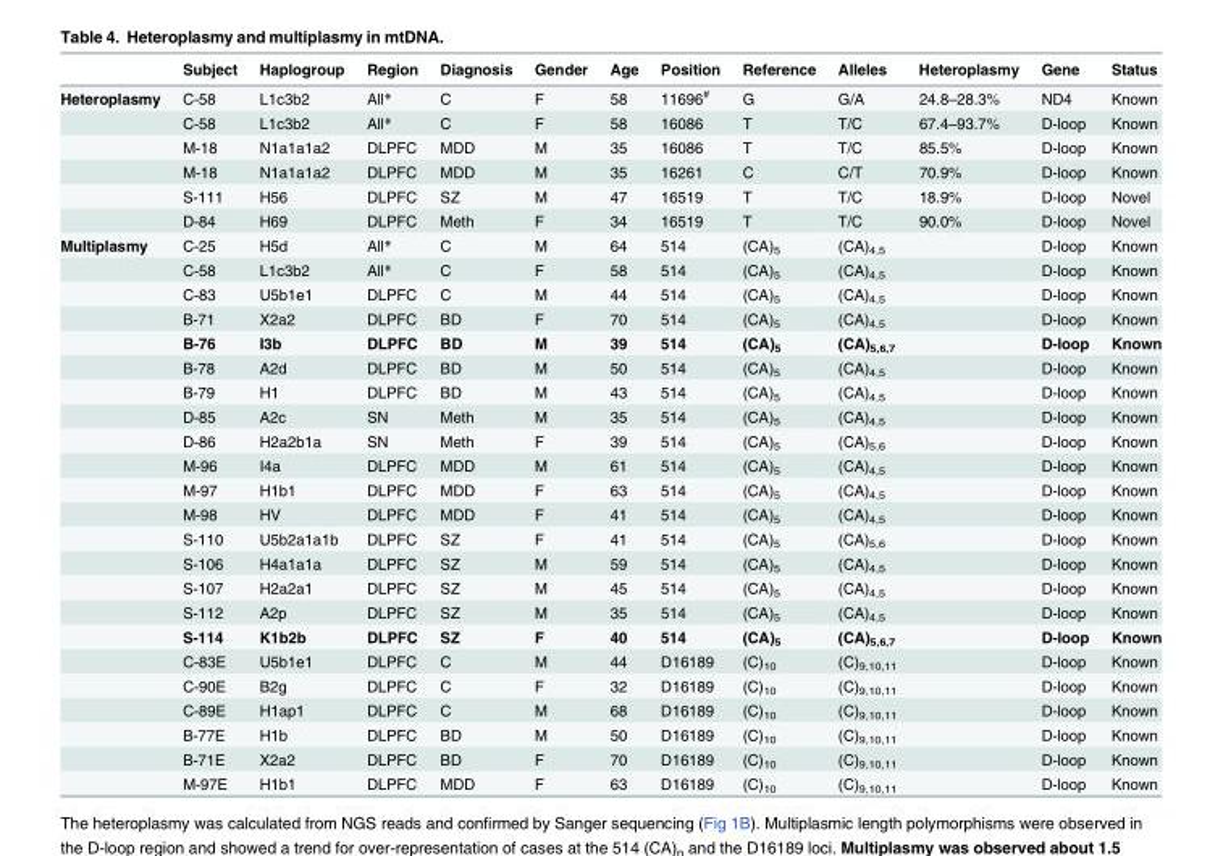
<table><thead><tr><td></td><td>Subject</td><td>Haplogroup</td><td>Region</td><td>Diagnosis</td><td>Gender</td><td>Age</td><td>Position</td><td>Reference</td><td>Alleles</td><td>Heteroplasmy</td><td>Gene</td><td>Status</td></tr></thead><tbody><tr><td rowspan="6">Heteroplasmy</td><td>C-58</td><td>L1c3b2</td><td>All*</td><td>C</td><td>F</td><td>58</td><td>11696<sup>#</sup></td><td>G</td><td>G/A</td><td>24.8–28.3%</td><td>ND4</td><td>Known</td></tr><tr><td>C-58</td><td>L1c3b2</td><td>All*</td><td>C</td><td>F</td><td>58</td><td>16086</td><td>T</td><td>T/C</td><td>67.4–93.7%</td><td>D-loop</td><td>Known</td></tr><tr><td>M-18</td><td>N1a1a1a2</td><td>DLPFC</td><td>MDD</td><td>M</td><td>35</td><td>16086</td><td>T</td><td>T/C</td><td>85.5%</td><td>D-loop</td><td>Known</td></tr><tr><td>M-18</td><td>N1a1a1a2</td><td>DLPFC</td><td>MDD</td><td>M</td><td>35</td><td>16261</td><td>C</td><td>C/T</td><td>70.9%</td><td>D-loop</td><td>Known</td></tr><tr><td>S-111</td><td>H56</td><td>DLPFC</td><td>SZ</td><td>M</td><td>47</td><td>16519</td><td>T</td><td>T/C</td><td>18.9%</td><td>D-loop</td><td>Novel</td></tr><tr><td>D-84</td><td>H69</td><td>DLPFC</td><td>Meth</td><td>F</td><td>34</td><td>16519</td><td>T</td><td>T/C</td><td>90.0%</td><td>D-loop</td><td>Novel</td></tr><tr><td rowspan="23">Multiplasmy</td><td>C-25</td><td>H5d</td><td>All*</td><td>C</td><td>M</td><td>64</td><td>514</td><td>(CA)<sub>5</sub></td><td>(CA)<sub>4,5</sub></td><td></td><td>D-loop</td><td>Known</td></tr><tr><td>C-58</td><td>L1c3b2</td><td>All*</td><td>C</td><td>F</td><td>58</td><td>514</td><td>(CA)<sub>5</sub></td><td>(CA)<sub>4,5</sub></td><td></td><td>D-loop</td><td>Known</td></tr><tr><td>C-83</td><td>U5b1e1</td><td>DLPFC</td><td>C</td><td>M</td><td>44</td><td>514</td><td>(CA)<sub>5</sub></td><td>(CA)<sub>4,5</sub></td><td></td><td>D-loop</td><td>Known</td></tr><tr><td>B-71</td><td>X2a2</td><td>DLPFC</td><td>BD</td><td>F</td><td>70</td><td>514</td><td>(CA)<sub>5</sub></td><td>(CA)<sub>4,5</sub></td><td></td><td>D-loop</td><td>Known</td></tr><tr><td>B-76</td><td>I3b</td><td>DLPFC</td><td>BD</td><td>M</td><td>39</td><td>514</td><td>(CA)<sub>5</sub></td><td>(CA)<sub>5,6,7</sub></td><td></td><td>D-loop</td><td>Known</td></tr><tr><td>B-78</td><td>A2d</td><td>DLPFC</td><td>BD</td><td>M</td><td>50</td><td>514</td><td>(CA)<sub>5</sub></td><td>(CA)<sub>4,5</sub></td><td></td><td>D-loop</td><td>Known</td></tr><tr><td>B-79</td><td>H1</td><td>DLPFC</td><td>BD</td><td>M</td><td>43</td><td>514</td><td>(CA)<sub>5</sub></td><td>(CA)<sub>4,5</sub></td><td></td><td>D-loop</td><td>Known</td></tr><tr><td>D-85</td><td>A2c</td><td>SN</td><td>Meth</td><td>M</td><td>35</td><td>514</td><td>(CA)<sub>5</sub></td><td>(CA)<sub>4,5</sub></td><td></td><td>D-loop</td><td>Known</td></tr><tr><td>D-86</td><td>H2a2b1a</td><td>SN</td><td>Meth</td><td>F</td><td>39</td><td>514</td><td>(CA)<sub>5</sub></td><td>(CA)<sub>5,6</sub></td><td></td><td>D-loop</td><td>Known</td></tr><tr><td>M-96</td><td>I4a</td><td>DLPFC</td><td>MDD</td><td>M</td><td>61</td><td>514</td><td>(CA)<sub>5</sub></td><td>(CA)<sub>4,5</sub></td><td></td><td>D-loop</td><td>Known</td></tr><tr><td>M-97</td><td>H1b1</td><td>DLPFC</td><td>MDD</td><td>F</td><td>63</td><td>514</td><td>(CA)<sub>5</sub></td><td>(CA)<sub>4,5</sub></td><td></td><td>D-loop</td><td>Known</td></tr><tr><td>M-98</td><td>HV</td><td>DLPFC</td><td>MDD</td><td>F</td><td>41</td><td>514</td><td>(CA)<sub>5</sub></td><td>(CA)<sub>4,5</sub></td><td></td><td>D-loop</td><td>Known</td></tr><tr><td>S-110</td><td>U5b2a1a1b</td><td>DLPFC</td><td>SZ</td><td>F</td><td>41</td><td>514</td><td>(CA)<sub>5</sub></td><td>(CA)<sub>5,6</sub></td><td></td><td>D-loop</td><td>Known</td></tr><tr><td>S-106</td><td>H4a1a1a</td><td>DLPFC</td><td>SZ</td><td>M</td><td>59</td><td>514</td><td>(CA)<sub>5</sub></td><td>(CA)<sub>4,5</sub></td><td></td><td>D-loop</td><td>Known</td></tr><tr><td>S-107</td><td>H2a2a1</td><td>DLPFC</td><td>SZ</td><td>M</td><td>45</td><td>514</td><td>(CA)<sub>5</sub></td><td>(CA)<sub>4,5</sub></td><td></td><td>D-loop</td><td>Known</td></tr><tr><td>S-112</td><td>A2p</td><td>DLPFC</td><td>SZ</td><td>M</td><td>35</td><td>514</td><td>(CA)<sub>5</sub></td><td>(CA)<sub>4,5</sub></td><td></td><td>D-loop</td><td>Known</td></tr><tr><td>S-114</td><td>K1b2b</td><td>DLPFC</td><td>SZ</td><td>F</td><td>40</td><td>514</td><td>(CA)<sub>5</sub></td><td>(CA)<sub>5,6,7</sub></td><td></td><td>D-loop</td><td>Known</td></tr><tr><td>C-83E</td><td>U5b1e1</td><td>DLPFC</td><td>C</td><td>M</td><td>44</td><td>D16189</td><td>(C)<sub>10</sub></td><td>(C)<sub>9,10,11</sub></td><td></td><td>D-loop</td><td>Known</td></tr><tr><td>C-90E</td><td>B2g</td><td>DLPFC</td><td>C</td><td>F</td><td>32</td><td>D16189</td><td>(C)<sub>10</sub></td><td>(C)<sub>9,10,11</sub></td><td></td><td>D-loop</td><td>Known</td></tr><tr><td>C-89E</td><td>H1ap1</td><td>DLPFC</td><td>C</td><td>M</td><td>68</td><td>D16189</td><td>(C)<sub>10</sub></td><td>(C)<sub>9,10,11</sub></td><td></td><td>D-loop</td><td>Known</td></tr><tr><td>B-77E</td><td>H1b</td><td>DLPFC</td><td>BD</td><td>M</td><td>50</td><td>D16189</td><td>(C)<sub>10</sub></td><td>(C)<sub>9,10,11</sub></td><td></td><td>D-loop</td><td>Known</td></tr><tr><td>B-71E</td><td>X2a2</td><td>DLPFC</td><td>BD</td><td>F</td><td>70</td><td>D16189</td><td>(C)<sub>10</sub></td><td>(C)<sub>9,10,11</sub></td><td></td><td>D-loop</td><td>Known</td></tr><tr><td>M-97E</td><td>H1b1</td><td>DLPFC</td><td>MDD</td><td>F</td><td>63</td><td>D16189</td><td>(C)<sub>10</sub></td><td>(C)<sub>9,10,11</sub></td><td></td><td>D-loop</td><td>Known</td></tr></tbody></table>